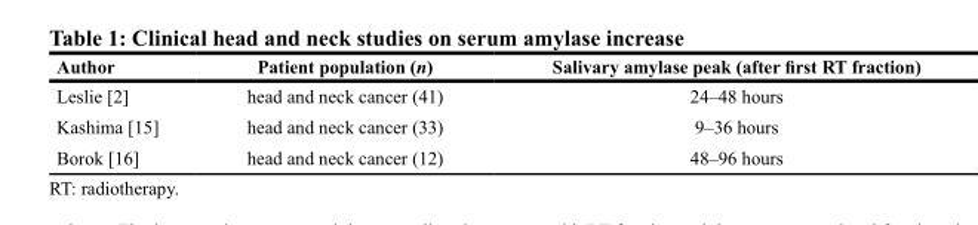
<table><thead><tr><td>Author</td><td>Patient population (n)</td><td>Salivary amylase peak (after first RT fraction)</td></tr></thead><tbody><tr><td>Leslie [2]</td><td>head and neck cancer (41)</td><td>24–48 hours</td></tr><tr><td>Kashima [15]</td><td>head and neck cancer (33)</td><td>9–36 hours</td></tr><tr><td>Borok [16]</td><td>head and neck cancer (12)</td><td>48–96 hours</td></tr></tbody></table>